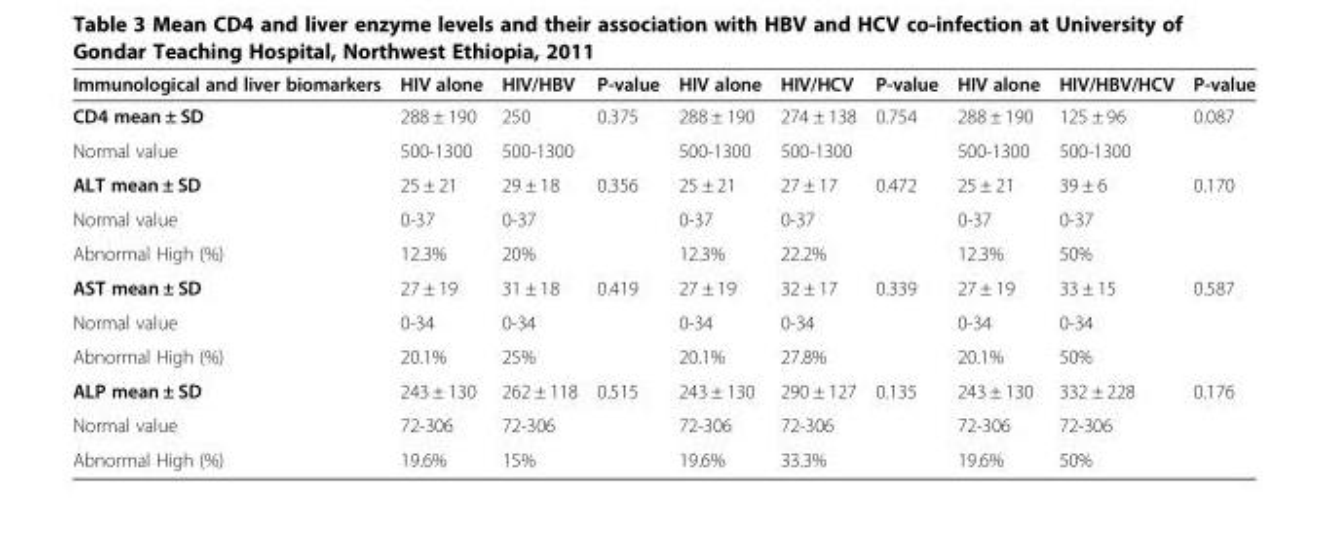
<table><thead><tr><td>Immunological and liver biomarkers</td><td>HIV alone</td><td>HIV/HBV</td><td>P-value</td><td>HIV alone</td><td>HIV/HCV</td><td>P-value</td><td>HIV alone</td><td>HIV/HBV/HCV</td><td>P-value</td></tr></thead><tbody><tr><td>CD4 mean ± SD</td><td>288 ± 190</td><td>250</td><td>0.375</td><td>288 ± 190</td><td>274 ± 138</td><td>0.754</td><td>288 ± 190</td><td>125 ± 96</td><td>0.087</td></tr><tr><td>Normal value</td><td>500-1300</td><td>500-1300</td><td></td><td>500-1300</td><td>500-1300</td><td></td><td>500-1300</td><td>500-1300</td><td></td></tr><tr><td>ALT mean ± SD</td><td>25 ± 21</td><td>29 ± 18</td><td>0.356</td><td>25 ± 21</td><td>27 ± 17</td><td>0.472</td><td>25 ± 21</td><td>39 ± 6</td><td>0.170</td></tr><tr><td>Normal value</td><td>0-37</td><td>0-37</td><td></td><td>0-37</td><td>0-37</td><td></td><td>0-37</td><td>0-37</td><td></td></tr><tr><td>Abnormal High (%)</td><td>12.3%</td><td>20%</td><td></td><td>12.3%</td><td>22.2%</td><td></td><td>12.3%</td><td>50%</td><td></td></tr><tr><td>AST mean ± SD</td><td>27 ± 19</td><td>31 ± 18</td><td>0.419</td><td>27 ± 19</td><td>32 ± 17</td><td>0.339</td><td>27 ± 19</td><td>33 ± 15</td><td>0.587</td></tr><tr><td>Normal value</td><td>0-34</td><td>0-34</td><td></td><td>0-34</td><td>0-34</td><td></td><td>0-34</td><td>0-34</td><td></td></tr><tr><td>Abnormal High (%)</td><td>20.1%</td><td>25%</td><td></td><td>20.1%</td><td>27.8%</td><td></td><td>20.1%</td><td>50%</td><td></td></tr><tr><td>ALP mean ± SD</td><td>243 ± 130</td><td>262 ± 118</td><td>0.515</td><td>243 ± 130</td><td>290 ± 127</td><td>0.135</td><td>243 ± 130</td><td>332 ± 228</td><td>0.176</td></tr><tr><td>Normal value</td><td>72-306</td><td>72-306</td><td></td><td>72-306</td><td>72-306</td><td></td><td>72-306</td><td>72-306</td><td></td></tr><tr><td>Abnormal High (%)</td><td>19.6%</td><td>15%</td><td></td><td>19.6%</td><td>33.3%</td><td></td><td>19.6%</td><td>50%</td><td></td></tr></tbody></table>